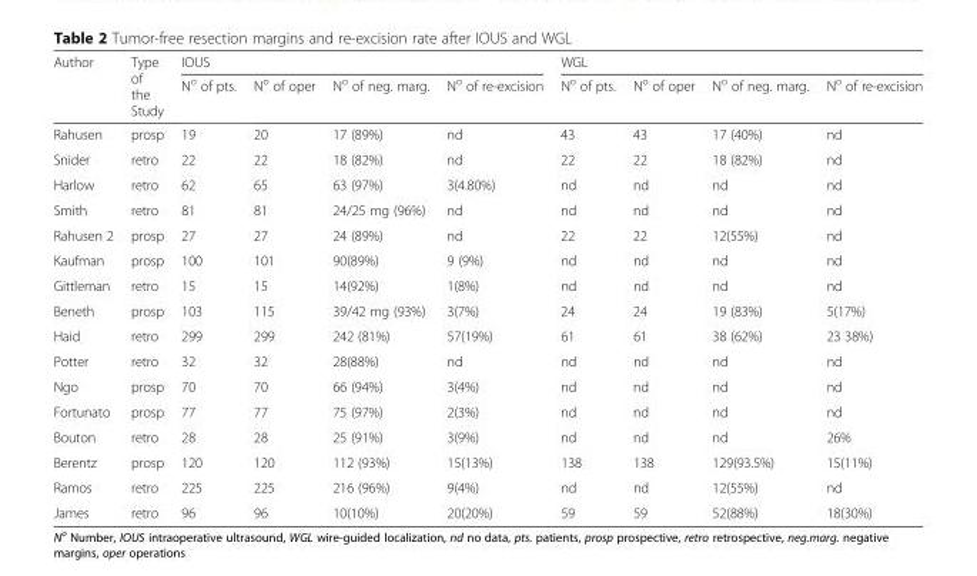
<table><thead><tr><td rowspan="2">Author</td><td rowspan="2">Type of the Study</td><td colspan="4">IOUS</td><td colspan="4">WGL</td></tr><tr><td>N<sup>o</sup> of pts.</td><td>N<sup>o</sup> of oper</td><td>N<sup>o</sup> of neg. marg.</td><td>N<sup>o</sup> of re-excision</td><td>N<sup>o</sup> of pts.</td><td>N<sup>o</sup> of oper</td><td>N<sup>o</sup> of neg. marg.</td><td>N<sup>o</sup> of re-excision</td></tr></thead><tbody><tr><td>Rahusen</td><td>prosp</td><td>19</td><td>20</td><td>17 (89%)</td><td>nd</td><td>43</td><td>43</td><td>17 (40%)</td><td>nd</td></tr><tr><td>Snider</td><td>retro</td><td>22</td><td>22</td><td>18 (82%)</td><td>nd</td><td>22</td><td>22</td><td>18 (82%)</td><td>nd</td></tr><tr><td>Harlow</td><td>retro</td><td>62</td><td>65</td><td>63 (97%)</td><td>3(4.80%)</td><td>nd</td><td>nd</td><td>nd</td><td>nd</td></tr><tr><td>Smith</td><td>retro</td><td>81</td><td>81</td><td>24/25 mg (96%)</td><td>nd</td><td>nd</td><td>nd</td><td>nd</td><td>nd</td></tr><tr><td>Rahusen 2</td><td>prosp</td><td>27</td><td>27</td><td>24 (89%)</td><td>nd</td><td>22</td><td>22</td><td>12(55%)</td><td>nd</td></tr><tr><td>Kaufman</td><td>prosp</td><td>100</td><td>101</td><td>90(89%)</td><td>9 (9%)</td><td>nd</td><td>nd</td><td>nd</td><td>nd</td></tr><tr><td>Gittleman</td><td>retro</td><td>15</td><td>15</td><td>14(92%)</td><td>1(8%)</td><td>nd</td><td>nd</td><td>nd</td><td>nd</td></tr><tr><td>Beneth</td><td>prosp</td><td>103</td><td>115</td><td>39/42 mg (93%)</td><td>3(7%)</td><td>24</td><td>24</td><td>19 (83%)</td><td>5(17%)</td></tr><tr><td>Haid</td><td>retro</td><td>299</td><td>299</td><td>242 (81%)</td><td>57(19%)</td><td>61</td><td>61</td><td>38 (62%)</td><td>23 38%)</td></tr><tr><td>Potter</td><td>retro</td><td>32</td><td>32</td><td>28(88%)</td><td>nd</td><td>nd</td><td>nd</td><td>nd</td><td>nd</td></tr><tr><td>Ngo</td><td>prosp</td><td>70</td><td>70</td><td>66 (94%)</td><td>3(4%)</td><td>nd</td><td>nd</td><td>nd</td><td>nd</td></tr><tr><td>Fortunato</td><td>prosp</td><td>77</td><td>77</td><td>75 (97%)</td><td>2(3%)</td><td>nd</td><td>nd</td><td>nd</td><td>nd</td></tr><tr><td>Bouton</td><td>retro</td><td>28</td><td>28</td><td>25 (91%)</td><td>3(9%)</td><td>nd</td><td>nd</td><td>nd</td><td>26%</td></tr><tr><td>Berentz</td><td>prosp</td><td>120</td><td>120</td><td>112 (93%)</td><td>15(13%)</td><td>138</td><td>138</td><td>129(93.5%)</td><td>15(11%)</td></tr><tr><td>Ramos</td><td>retro</td><td>225</td><td>225</td><td>216 (96%)</td><td>9(4%)</td><td>nd</td><td>nd</td><td>12(55%)</td><td>nd</td></tr><tr><td>James</td><td>retro</td><td>96</td><td>96</td><td>10(10%)</td><td>20(20%)</td><td>59</td><td>59</td><td>52(88%)</td><td>18(30%)</td></tr></tbody></table>